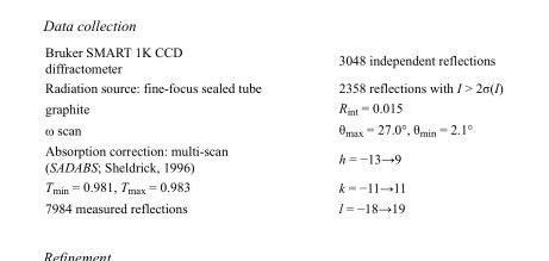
<table><tbody><tr><td>Bruker SMART 1K CCD diffractometer</td><td>3048 independent reflections</td></tr><tr><td>Radiation source: fine-focus sealed tube</td><td>2358 reflections with I &gt; 2σ(I)</td></tr><tr><td>graphite</td><td>R<sub>int</sub> = 0.015</td></tr><tr><td>ω scan</td><td>θ<sub>max</sub> = 27.0°, θ<sub>min</sub> = 2.1°</td></tr><tr><td>Absorption correction: multi-scan (SADABS; Sheldrick, 1996)</td><td>h = −13→9</td></tr><tr><td>T<sub>min</sub> = 0.981, T<sub>max</sub> = 0.983</td><td>k = −11→11</td></tr><tr><td>7984 measured reflections</td><td>l = −18→19</td></tr></tbody></table>